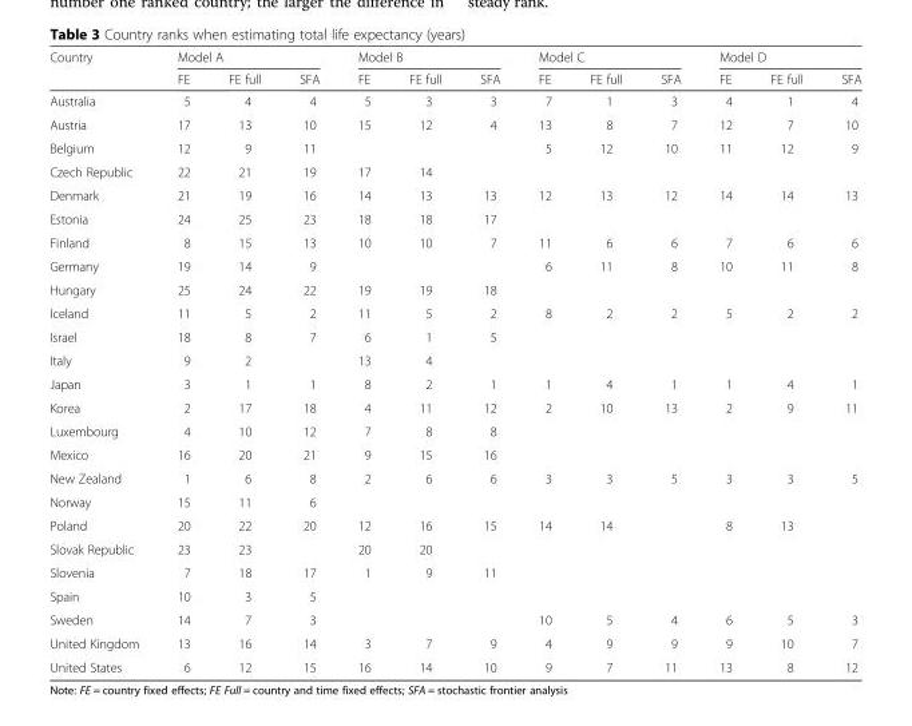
<table><thead><tr><td rowspan="2">Country</td><td colspan="3">Model A</td><td colspan="3">Model B</td><td colspan="3">Model C</td><td colspan="3">Model D</td></tr><tr><td>FE</td><td>FE full</td><td>SFA</td><td>FE</td><td>FE full</td><td>SFA</td><td>FE</td><td>FE full</td><td>SFA</td><td>FE</td><td>FE full</td><td>SFA</td></tr></thead><tbody><tr><td>Australia</td><td>5</td><td>4</td><td>4</td><td>5</td><td>3</td><td>3</td><td>7</td><td>1</td><td>3</td><td>4</td><td>1</td><td>4</td></tr><tr><td>Austria</td><td>17</td><td>13</td><td>10</td><td>15</td><td>12</td><td>4</td><td>13</td><td>8</td><td>7</td><td>12</td><td>7</td><td>10</td></tr><tr><td>Belgium</td><td>12</td><td>9</td><td>11</td><td></td><td></td><td></td><td>5</td><td>12</td><td>10</td><td>11</td><td>12</td><td>9</td></tr><tr><td>Czech Republic</td><td>22</td><td>21</td><td>19</td><td>17</td><td>14</td><td></td><td></td><td></td><td></td><td></td><td></td><td></td></tr><tr><td>Denmark</td><td>21</td><td>19</td><td>16</td><td>14</td><td>13</td><td>13</td><td>12</td><td>13</td><td>12</td><td>14</td><td>14</td><td>13</td></tr><tr><td>Estonia</td><td>24</td><td>25</td><td>23</td><td>18</td><td>18</td><td>17</td><td></td><td></td><td></td><td></td><td></td><td></td></tr><tr><td>Finland</td><td>8</td><td>15</td><td>13</td><td>10</td><td>10</td><td>7</td><td>11</td><td>6</td><td>6</td><td>7</td><td>6</td><td>6</td></tr><tr><td>Germany</td><td>19</td><td>14</td><td>9</td><td></td><td></td><td></td><td>6</td><td>11</td><td>8</td><td>10</td><td>11</td><td>8</td></tr><tr><td>Hungary</td><td>25</td><td>24</td><td>22</td><td>19</td><td>19</td><td>18</td><td></td><td></td><td></td><td></td><td></td><td></td></tr><tr><td>Iceland</td><td>11</td><td>5</td><td>2</td><td>11</td><td>5</td><td>2</td><td>8</td><td>2</td><td>2</td><td>5</td><td>2</td><td>2</td></tr><tr><td>Israel</td><td>18</td><td>8</td><td>7</td><td>6</td><td>1</td><td>5</td><td></td><td></td><td></td><td></td><td></td><td></td></tr><tr><td>Italy</td><td>9</td><td>2</td><td></td><td>13</td><td>4</td><td></td><td></td><td></td><td></td><td></td><td></td><td></td></tr><tr><td>Japan</td><td>3</td><td>1</td><td>1</td><td>8</td><td>2</td><td>1</td><td>1</td><td>4</td><td>1</td><td>1</td><td>4</td><td>1</td></tr><tr><td>Korea</td><td>2</td><td>17</td><td>18</td><td>4</td><td>11</td><td>12</td><td>2</td><td>10</td><td>13</td><td>2</td><td>9</td><td>11</td></tr><tr><td>Luxembourg</td><td>4</td><td>10</td><td>12</td><td>7</td><td>8</td><td>8</td><td></td><td></td><td></td><td></td><td></td><td></td></tr><tr><td>Mexico</td><td>16</td><td>20</td><td>21</td><td>9</td><td>15</td><td>16</td><td></td><td></td><td></td><td></td><td></td><td></td></tr><tr><td>New Zealand</td><td>1</td><td>6</td><td>8</td><td>2</td><td>6</td><td>6</td><td>3</td><td>3</td><td>5</td><td>3</td><td>3</td><td>5</td></tr><tr><td>Norway</td><td>15</td><td>11</td><td>6</td><td></td><td></td><td></td><td></td><td></td><td></td><td></td><td></td><td></td></tr><tr><td>Poland</td><td>20</td><td>22</td><td>20</td><td>12</td><td>16</td><td>15</td><td>14</td><td>14</td><td></td><td>8</td><td>13</td><td></td></tr><tr><td>Slovak Republic</td><td>23</td><td>23</td><td></td><td>20</td><td>20</td><td></td><td></td><td></td><td></td><td></td><td></td><td></td></tr><tr><td>Slovenia</td><td>7</td><td>18</td><td>17</td><td>1</td><td>9</td><td>11</td><td></td><td></td><td></td><td></td><td></td><td></td></tr><tr><td>Spain</td><td>10</td><td>3</td><td>5</td><td></td><td></td><td></td><td></td><td></td><td></td><td></td><td></td><td></td></tr><tr><td>Sweden</td><td>14</td><td>7</td><td>3</td><td></td><td></td><td></td><td>10</td><td>5</td><td>4</td><td>6</td><td>5</td><td>3</td></tr><tr><td>United Kingdom</td><td>13</td><td>16</td><td>14</td><td>3</td><td>7</td><td>9</td><td>4</td><td>9</td><td>9</td><td>9</td><td>10</td><td>7</td></tr><tr><td>United States</td><td>6</td><td>12</td><td>15</td><td>16</td><td>14</td><td>10</td><td>9</td><td>7</td><td>11</td><td>13</td><td>8</td><td>12</td></tr></tbody></table>